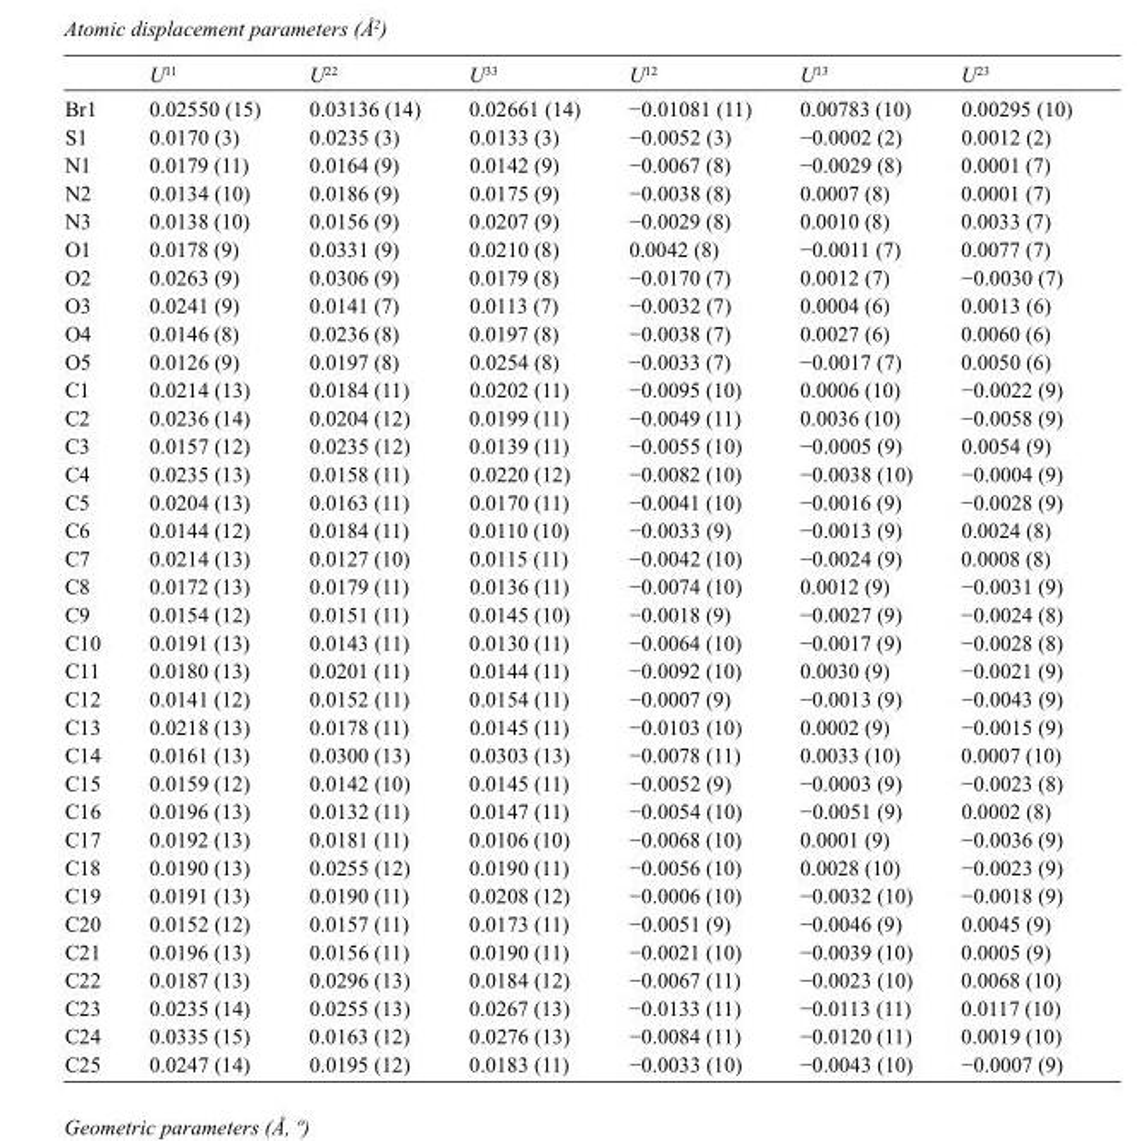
<table><thead><tr><td></td><td>U<sup>11</sup></td><td>U<sup>22</sup></td><td>U<sup>33</sup></td><td>U<sup>12</sup></td><td>U<sup>13</sup></td><td>U<sup>23</sup></td></tr></thead><tbody><tr><td>Br1</td><td>0.02550 (15)</td><td>0.03136 (14)</td><td>0.02661 (14)</td><td>−0.01081 (11)</td><td>0.00783 (10)</td><td>0.00295 (10)</td></tr><tr><td>S1</td><td>0.0170 (3)</td><td>0.0235 (3)</td><td>0.0133 (3)</td><td>−0.0052 (3)</td><td>−0.0002 (2)</td><td>0.0012 (2)</td></tr><tr><td>N1</td><td>0.0179 (11)</td><td>0.0164 (9)</td><td>0.0142 (9)</td><td>−0.0067 (8)</td><td>−0.0029 (8)</td><td>0.0001 (7)</td></tr><tr><td>N2</td><td>0.0134 (10)</td><td>0.0186 (9)</td><td>0.0175 (9)</td><td>−0.0038 (8)</td><td>0.0007 (8)</td><td>0.0001 (7)</td></tr><tr><td>N3</td><td>0.0138 (10)</td><td>0.0156 (9)</td><td>0.0207 (9)</td><td>−0.0029 (8)</td><td>0.0010 (8)</td><td>0.0033 (7)</td></tr><tr><td>O1</td><td>0.0178 (9)</td><td>0.0331 (9)</td><td>0.0210 (8)</td><td>0.0042 (8)</td><td>−0.0011 (7)</td><td>0.0077 (7)</td></tr><tr><td>O2</td><td>0.0263 (9)</td><td>0.0306 (9)</td><td>0.0179 (8)</td><td>−0.0170 (7)</td><td>0.0012 (7)</td><td>−0.0030 (7)</td></tr><tr><td>O3</td><td>0.0241 (9)</td><td>0.0141 (7)</td><td>0.0113 (7)</td><td>−0.0032 (7)</td><td>0.0004 (6)</td><td>0.0013 (6)</td></tr><tr><td>O4</td><td>0.0146 (8)</td><td>0.0236 (8)</td><td>0.0197 (8)</td><td>−0.0038 (7)</td><td>0.0027 (6)</td><td>0.0060 (6)</td></tr><tr><td>O5</td><td>0.0126 (9)</td><td>0.0197 (8)</td><td>0.0254 (8)</td><td>−0.0033 (7)</td><td>−0.0017 (7)</td><td>0.0050 (6)</td></tr><tr><td>C1</td><td>0.0214 (13)</td><td>0.0184 (11)</td><td>0.0202 (11)</td><td>−0.0095 (10)</td><td>0.0006 (10)</td><td>−0.0022 (9)</td></tr><tr><td>C2</td><td>0.0236 (14)</td><td>0.0204 (12)</td><td>0.0199 (11)</td><td>−0.0049 (11)</td><td>0.0036 (10)</td><td>−0.0058 (9)</td></tr><tr><td>C3</td><td>0.0157 (12)</td><td>0.0235 (12)</td><td>0.0139 (11)</td><td>−0.0055 (10)</td><td>−0.0005 (9)</td><td>0.0054 (9)</td></tr><tr><td>C4</td><td>0.0235 (13)</td><td>0.0158 (11)</td><td>0.0220 (12)</td><td>−0.0082 (10)</td><td>−0.0038 (10)</td><td>−0.0004 (9)</td></tr><tr><td>C5</td><td>0.0204 (13)</td><td>0.0163 (11)</td><td>0.0170 (11)</td><td>−0.0041 (10)</td><td>−0.0016 (9)</td><td>−0.0028 (9)</td></tr><tr><td>C6</td><td>0.0144 (12)</td><td>0.0184 (11)</td><td>0.0110 (10)</td><td>−0.0033 (9)</td><td>−0.0013 (9)</td><td>0.0024 (8)</td></tr><tr><td>C7</td><td>0.0214 (13)</td><td>0.0127 (10)</td><td>0.0115 (11)</td><td>−0.0042 (10)</td><td>−0.0024 (9)</td><td>0.0008 (8)</td></tr><tr><td>C8</td><td>0.0172 (13)</td><td>0.0179 (11)</td><td>0.0136 (11)</td><td>−0.0074 (10)</td><td>0.0012 (9)</td><td>−0.0031 (9)</td></tr><tr><td>C9</td><td>0.0154 (12)</td><td>0.0151 (11)</td><td>0.0145 (10)</td><td>−0.0018 (9)</td><td>−0.0027 (9)</td><td>−0.0024 (8)</td></tr><tr><td>C10</td><td>0.0191 (13)</td><td>0.0143 (11)</td><td>0.0130 (11)</td><td>−0.0064 (10)</td><td>−0.0017 (9)</td><td>−0.0028 (8)</td></tr><tr><td>C11</td><td>0.0180 (13)</td><td>0.0201 (11)</td><td>0.0144 (11)</td><td>−0.0092 (10)</td><td>0.0030 (9)</td><td>−0.0021 (9)</td></tr><tr><td>C12</td><td>0.0141 (12)</td><td>0.0152 (11)</td><td>0.0154 (11)</td><td>−0.0007 (9)</td><td>−0.0013 (9)</td><td>−0.0043 (9)</td></tr><tr><td>C13</td><td>0.0218 (13)</td><td>0.0178 (11)</td><td>0.0145 (11)</td><td>−0.0103 (10)</td><td>0.0002 (9)</td><td>−0.0015 (9)</td></tr><tr><td>C14</td><td>0.0161 (13)</td><td>0.0300 (13)</td><td>0.0303 (13)</td><td>−0.0078 (11)</td><td>0.0033 (10)</td><td>0.0007 (10)</td></tr><tr><td>C15</td><td>0.0159 (12)</td><td>0.0142 (10)</td><td>0.0145 (11)</td><td>−0.0052 (9)</td><td>−0.0003 (9)</td><td>−0.0023 (8)</td></tr><tr><td>C16</td><td>0.0196 (13)</td><td>0.0132 (11)</td><td>0.0147 (11)</td><td>−0.0054 (10)</td><td>−0.0051 (9)</td><td>0.0002 (8)</td></tr><tr><td>C17</td><td>0.0192 (13)</td><td>0.0181 (11)</td><td>0.0106 (10)</td><td>−0.0068 (10)</td><td>0.0001 (9)</td><td>−0.0036 (9)</td></tr><tr><td>C18</td><td>0.0190 (13)</td><td>0.0255 (12)</td><td>0.0190 (11)</td><td>−0.0056 (10)</td><td>0.0028 (10)</td><td>−0.0023 (9)</td></tr><tr><td>C19</td><td>0.0191 (13)</td><td>0.0190 (11)</td><td>0.0208 (12)</td><td>−0.0006 (10)</td><td>−0.0032 (10)</td><td>−0.0018 (9)</td></tr><tr><td>C20</td><td>0.0152 (12)</td><td>0.0157 (11)</td><td>0.0173 (11)</td><td>−0.0051 (9)</td><td>−0.0046 (9)</td><td>0.0045 (9)</td></tr><tr><td>C21</td><td>0.0196 (13)</td><td>0.0156 (11)</td><td>0.0190 (11)</td><td>−0.0021 (10)</td><td>−0.0039 (10)</td><td>0.0005 (9)</td></tr><tr><td>C22</td><td>0.0187 (13)</td><td>0.0296 (13)</td><td>0.0184 (12)</td><td>−0.0067 (11)</td><td>−0.0023 (10)</td><td>0.0068 (10)</td></tr><tr><td>C23</td><td>0.0235 (14)</td><td>0.0255 (13)</td><td>0.0267 (13)</td><td>−0.0133 (11)</td><td>−0.0113 (11)</td><td>0.0117 (10)</td></tr><tr><td>C24</td><td>0.0335 (15)</td><td>0.0163 (12)</td><td>0.0276 (13)</td><td>−0.0084 (11)</td><td>−0.0120 (11)</td><td>0.0019 (10)</td></tr><tr><td>C25</td><td>0.0247 (14)</td><td>0.0195 (12)</td><td>0.0183 (11)</td><td>−0.0033 (10)</td><td>−0.0043 (10)</td><td>−0.0007 (9)</td></tr></tbody></table>